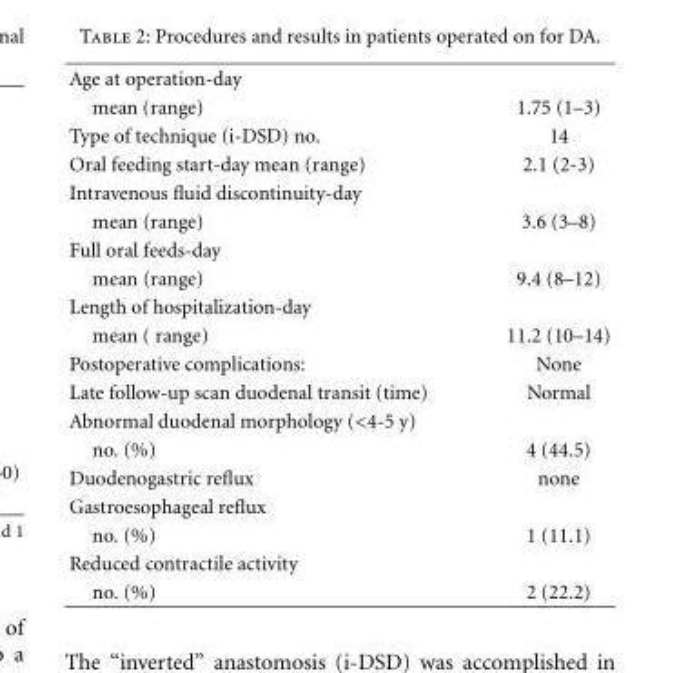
<table><tbody><tr><td colspan="2">Age at operation-day</td></tr><tr><td>mean (range)</td><td>1.75 (1–3)</td></tr><tr><td>Type of technique (i-DSD) no.</td><td>14</td></tr><tr><td>Oral feeding start-day mean (range)</td><td>2.1 (2-3)</td></tr><tr><td colspan="2">Intravenous fluid discontinuity-day</td></tr><tr><td>mean (range)</td><td>3.6 (3–8)</td></tr><tr><td colspan="2">Full oral feeds-day</td></tr><tr><td>mean (range)</td><td>9.4 (8–12)</td></tr><tr><td colspan="2">Length of hospitalization-day</td></tr><tr><td>mean ( range)</td><td>11.2 (10–14)</td></tr><tr><td>Postoperative complications:</td><td>None</td></tr><tr><td>Late follow-up scan duodenal transit (time)</td><td>Normal</td></tr><tr><td colspan="2">Abnormal duodenal morphology (&lt;4-5 y)</td></tr><tr><td>no. (%)</td><td>4 (44.5)</td></tr><tr><td>Duodenogastric reflux</td><td>none</td></tr><tr><td colspan="2">Gastroesophageal reflux</td></tr><tr><td>no. (%)</td><td>1 (11.1)</td></tr><tr><td colspan="2">Reduced contractile activity</td></tr><tr><td>no. (%)</td><td>2 (22.2)</td></tr></tbody></table>